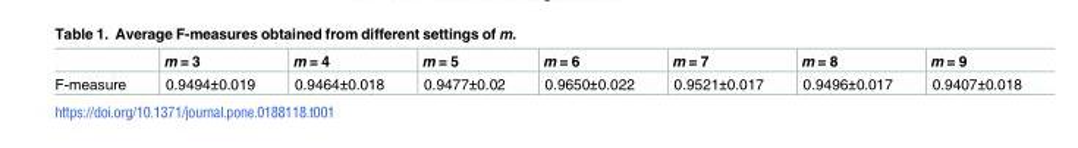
<table><thead><tr><td></td><td>m = 3</td><td>m = 4</td><td>m = 5</td><td>m = 6</td><td>m = 7</td><td>m = 8</td><td>m = 9</td></tr></thead><tbody><tr><td>F-measure</td><td>0.9494±0.019</td><td>0.9464±0.018</td><td>0.9477±0.02</td><td>0.9650±0.022</td><td>0.9521±0.017</td><td>0.9496±0.017</td><td>0.9407±0.018</td></tr></tbody></table>